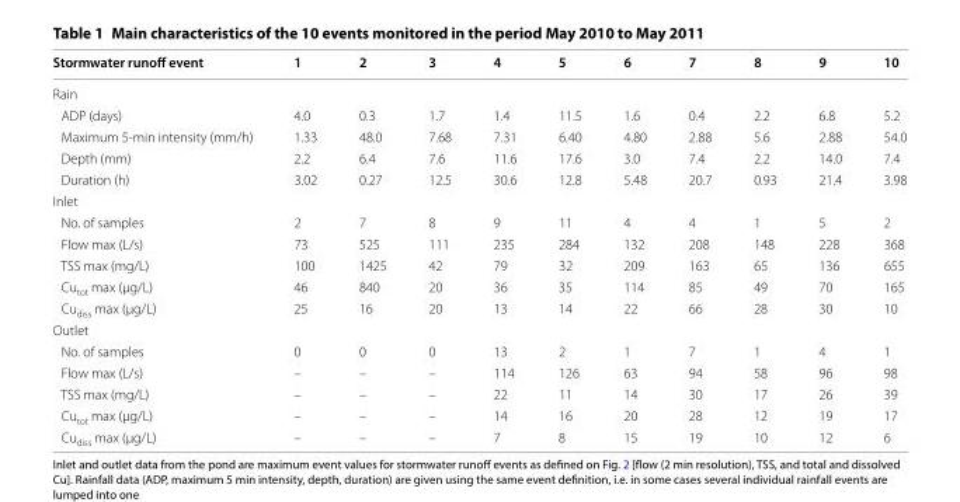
<table><thead><tr><td>Stormwater runoff event</td><td>1</td><td>2</td><td>3</td><td>4</td><td>5</td><td>6</td><td>7</td><td>8</td><td>9</td><td>10</td></tr></thead><tbody><tr><td colspan="11">Rain</td></tr><tr><td>ADP (days)</td><td>4.0</td><td>0.3</td><td>1.7</td><td>1.4</td><td>11.5</td><td>1.6</td><td>0.4</td><td>2.2</td><td>6.8</td><td>5.2</td></tr><tr><td>Maximum 5‑min intensity (mm/h)</td><td>1.33</td><td>48.0</td><td>7.68</td><td>7.31</td><td>6.40</td><td>4.80</td><td>2.88</td><td>5.6</td><td>2.88</td><td>54.0</td></tr><tr><td>Depth (mm)</td><td>2.2</td><td>6.4</td><td>7.6</td><td>11.6</td><td>17.6</td><td>3.0</td><td>7.4</td><td>2.2</td><td>14.0</td><td>7.4</td></tr><tr><td>Duration (h)</td><td>3.02</td><td>0.27</td><td>12.5</td><td>30.6</td><td>12.8</td><td>5.48</td><td>20.7</td><td>0.93</td><td>21.4</td><td>3.98</td></tr><tr><td colspan="11">Inlet</td></tr><tr><td>No. of samples</td><td>2</td><td>7</td><td>8</td><td>9</td><td>11</td><td>4</td><td>4</td><td>1</td><td>5</td><td>2</td></tr><tr><td>Flow max (L/s)</td><td>73</td><td>525</td><td>111</td><td>235</td><td>284</td><td>132</td><td>208</td><td>148</td><td>228</td><td>368</td></tr><tr><td>TSS max (mg/L)</td><td>100</td><td>1425</td><td>42</td><td>79</td><td>32</td><td>209</td><td>163</td><td>65</td><td>136</td><td>655</td></tr><tr><td>Cu<sub>tot</sub> max (μg/L)</td><td>46</td><td>840</td><td>20</td><td>36</td><td>35</td><td>114</td><td>85</td><td>49</td><td>70</td><td>165</td></tr><tr><td>Cu<sub>diss</sub> max (μg/L)</td><td>25</td><td>16</td><td>20</td><td>13</td><td>14</td><td>22</td><td>66</td><td>28</td><td>30</td><td>10</td></tr><tr><td colspan="11">Outlet</td></tr><tr><td>No. of samples</td><td>0</td><td>0</td><td>0</td><td>13</td><td>2</td><td>1</td><td>7</td><td>1</td><td>4</td><td>1</td></tr><tr><td>Flow max (L/s)</td><td>–</td><td>–</td><td>–</td><td>114</td><td>126</td><td>63</td><td>94</td><td>58</td><td>96</td><td>98</td></tr><tr><td>TSS max (mg/L)</td><td>–</td><td>–</td><td>–</td><td>22</td><td>11</td><td>14</td><td>30</td><td>17</td><td>26</td><td>39</td></tr><tr><td>Cu<sub>tot</sub> max (μg/L)</td><td>–</td><td>–</td><td>–</td><td>14</td><td>16</td><td>20</td><td>28</td><td>12</td><td>19</td><td>17</td></tr><tr><td>Cu<sub>diss</sub> max (μg/L)</td><td>–</td><td>–</td><td>–</td><td>7</td><td>8</td><td>15</td><td>19</td><td>10</td><td>12</td><td>6</td></tr></tbody></table>